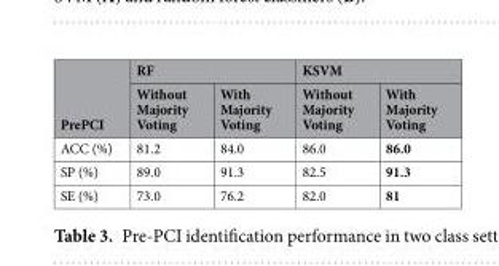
<table><thead><tr><td rowspan="2">PrePCI</td><td colspan="2">RF</td><td colspan="2">KSVM</td></tr><tr><td>Without Majority Voting</td><td>With Majority Voting</td><td>Without Majority Voting</td><td>With Majority Voting</td></tr></thead><tbody><tr><td>ACC (%)</td><td>81.2</td><td>84.0</td><td>86.0</td><td>86.0</td></tr><tr><td>SP (%)</td><td>89.0</td><td>91.3</td><td>82.5</td><td>91.3</td></tr><tr><td>SE (%)</td><td>73.0</td><td>76.2</td><td>82.0</td><td>81</td></tr></tbody></table>